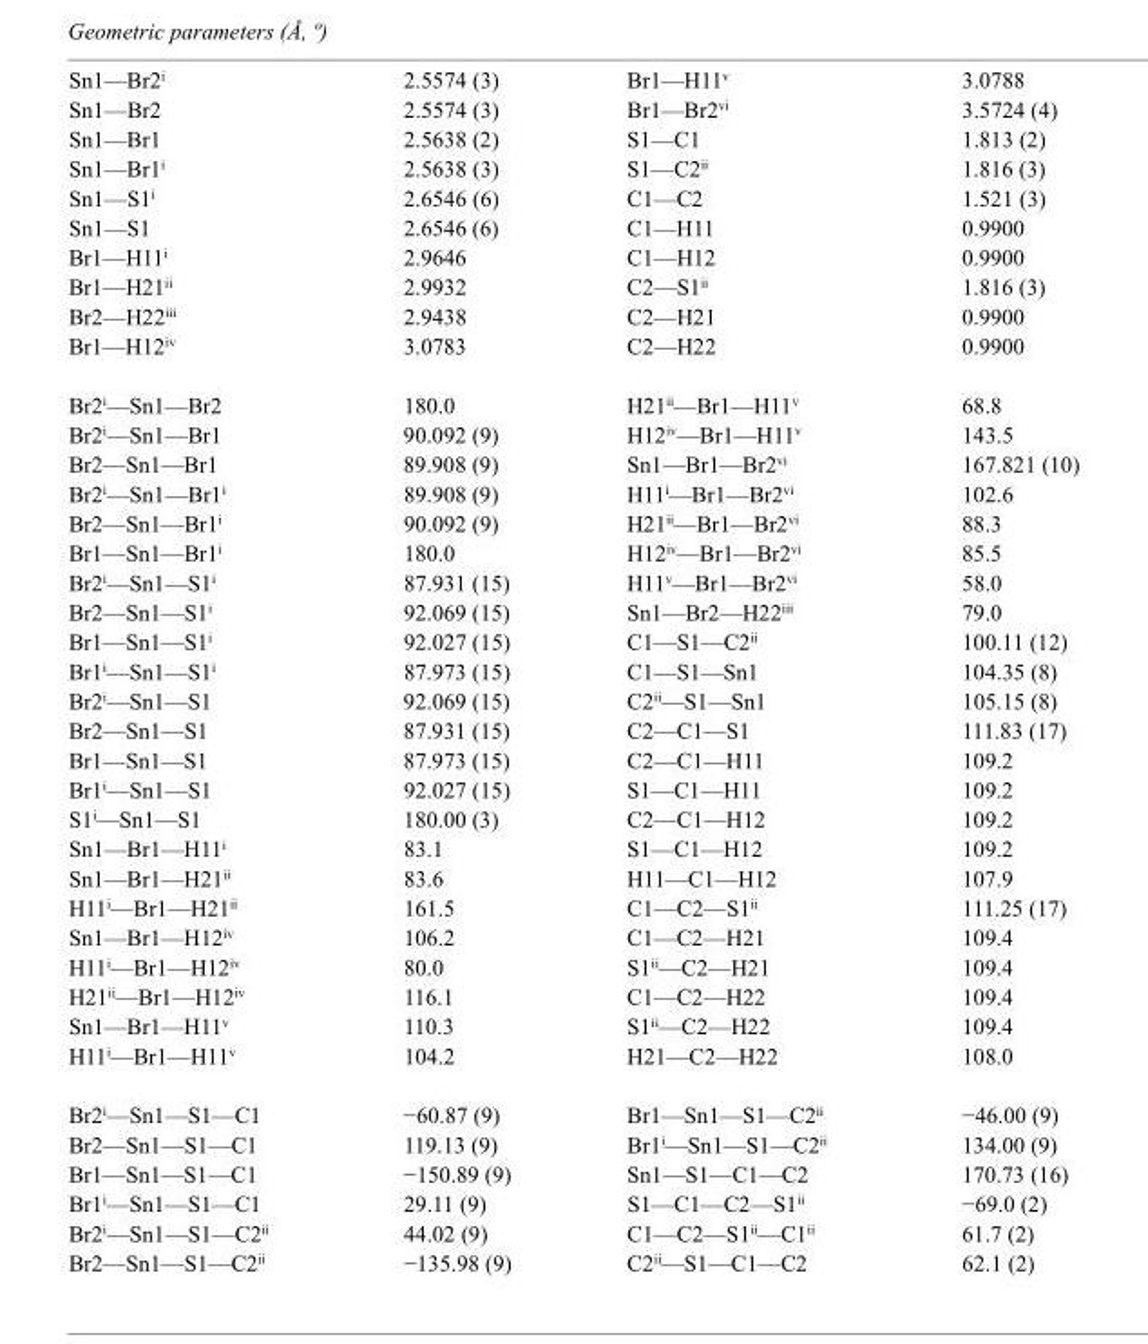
<table><tbody><tr><td>Sn1—Br2<sup>i</sup></td><td>2.5574 (3)</td><td>Br1—H11<sup>v</sup></td><td>3.0788</td></tr><tr><td>Sn1—Br2</td><td>2.5574 (3)</td><td>Br1—Br2<sup>vi</sup></td><td>3.5724 (4)</td></tr><tr><td>Sn1—Br1</td><td>2.5638 (2)</td><td>S1—C1</td><td>1.813 (2)</td></tr><tr><td>Sn1—Br1<sup>i</sup></td><td>2.5638 (3)</td><td>S1—C2<sup>ii</sup></td><td>1.816 (3)</td></tr><tr><td>Sn1—S1<sup>i</sup></td><td>2.6546 (6)</td><td>C1—C2</td><td>1.521 (3)</td></tr><tr><td>Sn1—S1</td><td>2.6546 (6)</td><td>C1—H11</td><td>0.9900</td></tr><tr><td>Br1—H11<sup>i</sup></td><td>2.9646</td><td>C1—H12</td><td>0.9900</td></tr><tr><td>Br1—H21<sup>ii</sup></td><td>2.9932</td><td>C2—S1<sup>ii</sup></td><td>1.816 (3)</td></tr><tr><td>Br2—H22<sup>iii</sup></td><td>2.9438</td><td>C2—H21</td><td>0.9900</td></tr><tr><td>Br1—H12<sup>iv</sup></td><td>3.0783</td><td>C2—H22</td><td>0.9900</td></tr><tr><td>Br2<sup>i</sup>—Sn1—Br2</td><td>180.0</td><td>H21<sup>ii</sup>—Br1—H11<sup>v</sup></td><td>68.8</td></tr><tr><td>Br2<sup>i</sup>—Sn1—Br1</td><td>90.092 (9)</td><td>H12<sup>iv</sup>—Br1—H11<sup>v</sup></td><td>143.5</td></tr><tr><td>Br2—Sn1—Br1</td><td>89.908 (9)</td><td>Sn1—Br1—Br2<sup>vi</sup></td><td>167.821 (10)</td></tr><tr><td>Br2<sup>i</sup>—Sn1—Br1<sup>i</sup></td><td>89.908 (9)</td><td>H11<sup>i</sup>—Br1—Br2<sup>vi</sup></td><td>102.6</td></tr><tr><td>Br2—Sn1—Br1<sup>i</sup></td><td>90.092 (9)</td><td>H21<sup>ii</sup>—Br1—Br2<sup>vi</sup></td><td>88.3</td></tr><tr><td>Br1—Sn1—Br1<sup>i</sup></td><td>180.0</td><td>H12<sup>iv</sup>—Br1—Br2<sup>vi</sup></td><td>85.5</td></tr><tr><td>Br2<sup>i</sup>—Sn1—S1<sup>i</sup></td><td>87.931 (15)</td><td>H11<sup>v</sup>—Br1—Br2<sup>vi</sup></td><td>58.0</td></tr><tr><td>Br2—Sn1—S1<sup>i</sup></td><td>92.069 (15)</td><td>Sn1—Br2—H22<sup>iii</sup></td><td>79.0</td></tr><tr><td>Br1—Sn1—S1<sup>i</sup></td><td>92.027 (15)</td><td>C1—S1—C2<sup>ii</sup></td><td>100.11 (12)</td></tr><tr><td>Br1<sup>i</sup>—Sn1—S1<sup>i</sup></td><td>87.973 (15)</td><td>C1—S1—Sn1</td><td>104.35 (8)</td></tr><tr><td>Br2<sup>i</sup>—Sn1—S1</td><td>92.069 (15)</td><td>C2<sup>ii</sup>—S1—Sn1</td><td>105.15 (8)</td></tr><tr><td>Br2—Sn1—S1</td><td>87.931 (15)</td><td>C2—C1—S1</td><td>111.83 (17)</td></tr><tr><td>Br1—Sn1—S1</td><td>87.973 (15)</td><td>C2—C1—H11</td><td>109.2</td></tr><tr><td>Br1<sup>i</sup>—Sn1—S1</td><td>92.027 (15)</td><td>S1—C1—H11</td><td>109.2</td></tr><tr><td>S1<sup>i</sup>—Sn1—S1</td><td>180.00 (3)</td><td>C2—C1—H12</td><td>109.2</td></tr><tr><td>Sn1—Br1—H11<sup>i</sup></td><td>83.1</td><td>S1—C1—H12</td><td>109.2</td></tr><tr><td>Sn1—Br1—H21<sup>ii</sup></td><td>83.6</td><td>H11—C1—H12</td><td>107.9</td></tr><tr><td>H11<sup>i</sup>—Br1—H21<sup>ii</sup></td><td>161.5</td><td>C1—C2—S1<sup>ii</sup></td><td>111.25 (17)</td></tr><tr><td>Sn1—Br1—H12<sup>iv</sup></td><td>106.2</td><td>C1—C2—H21</td><td>109.4</td></tr><tr><td>H11<sup>i</sup>—Br1—H12<sup>iv</sup></td><td>80.0</td><td>S1<sup>ii</sup>—C2—H21</td><td>109.4</td></tr><tr><td>H21<sup>ii</sup>—Br1—H12<sup>iv</sup></td><td>116.1</td><td>C1—C2—H22</td><td>109.4</td></tr><tr><td>Sn1—Br1—H11<sup>v</sup></td><td>110.3</td><td>S1<sup>ii</sup>—C2—H22</td><td>109.4</td></tr><tr><td>H11<sup>i</sup>—Br1—H11<sup>v</sup></td><td>104.2</td><td>H21—C2—H22</td><td>108.0</td></tr><tr><td>Br2<sup>i</sup>—Sn1—S1—C1</td><td>−60.87 (9)</td><td>Br1—Sn1—S1—C2<sup>ii</sup></td><td>−46.00 (9)</td></tr><tr><td>Br2—Sn1—S1—C1</td><td>119.13 (9)</td><td>Br1<sup>i</sup>—Sn1—S1—C2<sup>ii</sup></td><td>134.00 (9)</td></tr><tr><td>Br1—Sn1—S1—C1</td><td>−150.89 (9)</td><td>Sn1—S1—C1—C2</td><td>170.73 (16)</td></tr><tr><td>Br1<sup>i</sup>—Sn1—S1—C1</td><td>29.11 (9)</td><td>S1—C1—C2—S1<sup>ii</sup></td><td>−69.0 (2)</td></tr><tr><td>Br2<sup>i</sup>—Sn1—S1—C2<sup>ii</sup></td><td>44.02 (9)</td><td>C1—C2—S1<sup>ii</sup>—C1<sup>ii</sup></td><td>61.7 (2)</td></tr><tr><td>Br2—Sn1—S1—C2<sup>ii</sup></td><td>−135.98 (9)</td><td>C2<sup>ii</sup>—S1—C1—C2</td><td>62.1 (2)</td></tr></tbody></table>